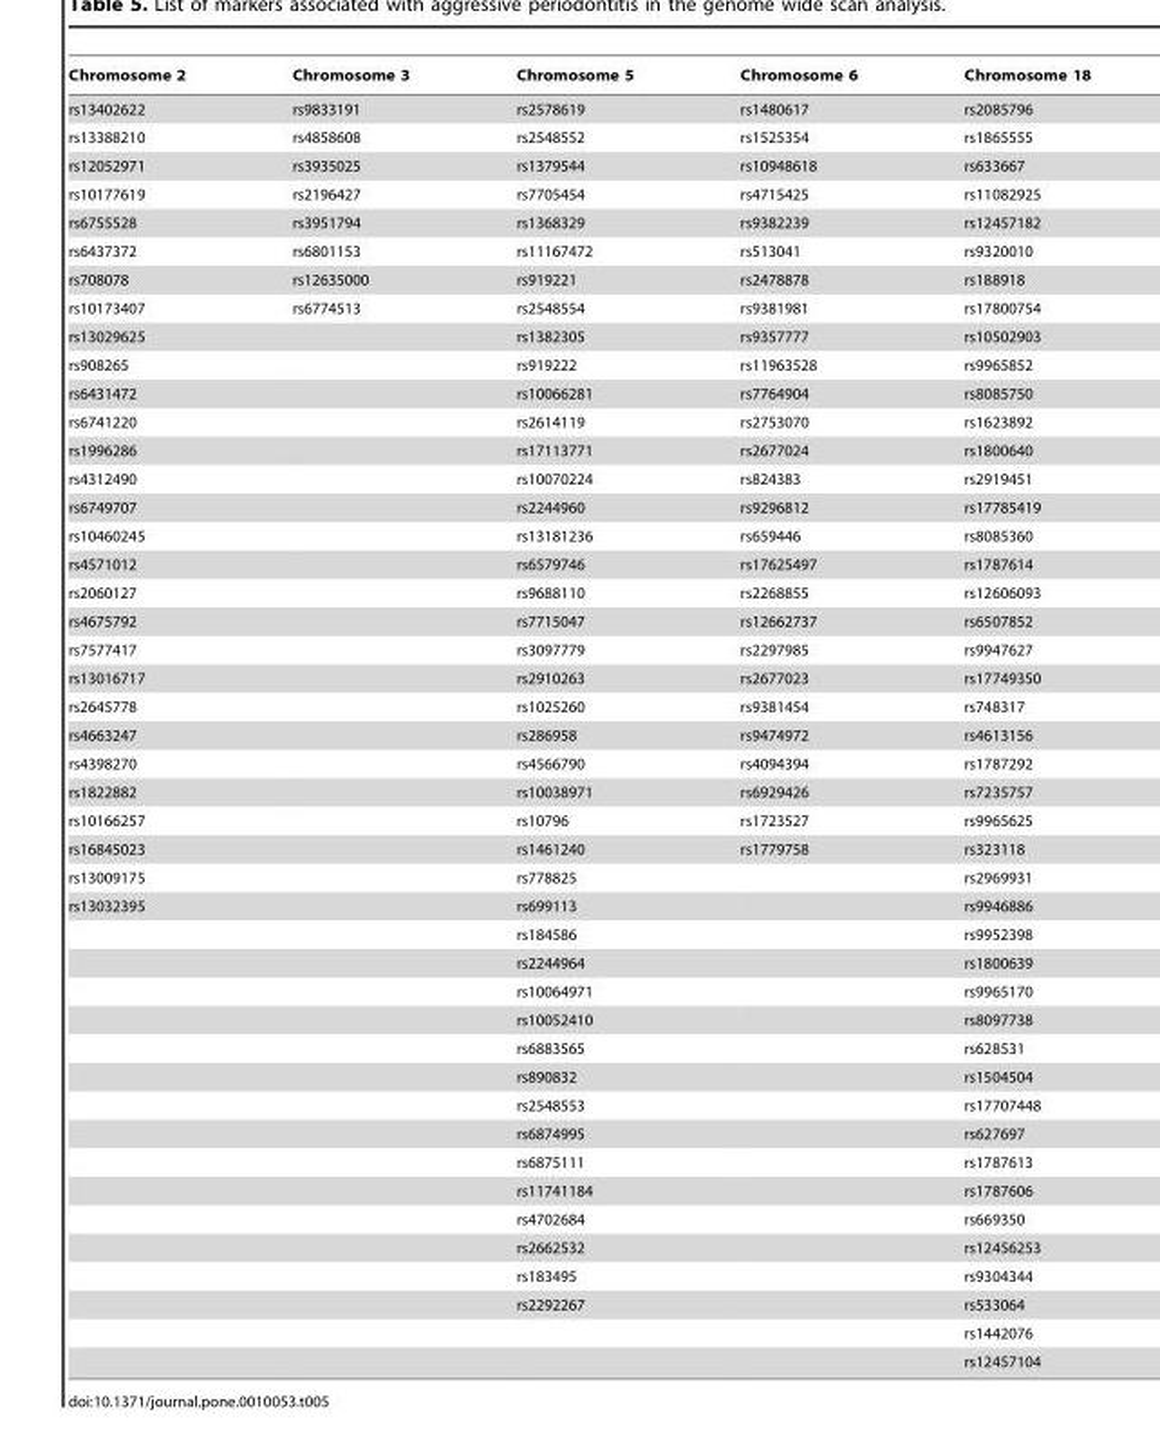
<table><thead><tr><td>Chromosome 2</td><td>Chromosome 3</td><td>Chromosome 5</td><td>Chromosome 6</td><td>Chromosome 18</td></tr></thead><tbody><tr><td>rs13402622</td><td>rs9833191</td><td>rs2578619</td><td>rs1480617</td><td>rs2085796</td></tr><tr><td>rs13388210</td><td>rs4858608</td><td>rs2548552</td><td>rs1525354</td><td>rs1865555</td></tr><tr><td>rs12052971</td><td>rs3935025</td><td>rs1379544</td><td>rs10948618</td><td>rs633667</td></tr><tr><td>rs10177619</td><td>rs2196427</td><td>rs7705454</td><td>rs4715425</td><td>rs11082925</td></tr><tr><td>rs6755528</td><td>rs3951794</td><td>rs1368329</td><td>rs9382239</td><td>rs12457182</td></tr><tr><td>rs6437372</td><td>rs6801153</td><td>rs11167472</td><td>rs513041</td><td>rs9320010</td></tr><tr><td>rs708078</td><td>rs12635000</td><td>rs919221</td><td>rs2478878</td><td>rs188918</td></tr><tr><td>rs10173407</td><td>rs6774513</td><td>rs2548554</td><td>rs9381981</td><td>rs17800754</td></tr><tr><td>rs13029625</td><td></td><td>rs1382305</td><td>rs9357777</td><td>rs10502903</td></tr><tr><td>rs908265</td><td></td><td>rs919222</td><td>rs11963528</td><td>rs9965852</td></tr><tr><td>rs6431472</td><td></td><td>rs10066281</td><td>rs7764904</td><td>rs8085750</td></tr><tr><td>rs6741220</td><td></td><td>rs2614119</td><td>rs2753070</td><td>rs1623892</td></tr><tr><td>rs1996286</td><td></td><td>rs17113771</td><td>rs2677024</td><td>rs1800640</td></tr><tr><td>rs4312490</td><td></td><td>rs10070224</td><td>rs824383</td><td>rs2919451</td></tr><tr><td>rs6749707</td><td></td><td>rs2244960</td><td>rs9296812</td><td>rs17785419</td></tr><tr><td>rs10460245</td><td></td><td>rs13181236</td><td>rs659446</td><td>rs8085360</td></tr><tr><td>rs4571012</td><td></td><td>rs6579746</td><td>rs17625497</td><td>rs1787614</td></tr><tr><td>rs2060127</td><td></td><td>rs9688110</td><td>rs2268855</td><td>rs12606093</td></tr><tr><td>rs4675792</td><td></td><td>rs7715047</td><td>rs12662737</td><td>rs6507852</td></tr><tr><td>rs7577417</td><td></td><td>rs3097779</td><td>rs2297985</td><td>rs9947627</td></tr><tr><td>rs13016717</td><td></td><td>rs2910263</td><td>rs2677023</td><td>rs17749350</td></tr><tr><td>rs2645778</td><td></td><td>rs1025260</td><td>rs9381454</td><td>rs748317</td></tr><tr><td>rs4663247</td><td></td><td>rs286958</td><td>rs9474972</td><td>rs4613156</td></tr><tr><td>rs4398270</td><td></td><td>rs4566790</td><td>rs4094394</td><td>rs1787292</td></tr><tr><td>rs1822882</td><td></td><td>rs10038971</td><td>rs6929426</td><td>rs7235757</td></tr><tr><td>rs10166257</td><td></td><td>rs10796</td><td>rs1723527</td><td>rs9965625</td></tr><tr><td>rs16845023</td><td></td><td>rs1461240</td><td>rs1779758</td><td>rs323118</td></tr><tr><td>rs13009175</td><td></td><td>rs778825</td><td></td><td>rs2969931</td></tr><tr><td rowspan="17">rs13032395</td><td></td><td>rs699113</td><td></td><td>rs9946886</td></tr><tr><td></td><td>rs184586</td><td></td><td>rs9952398</td></tr><tr><td></td><td>rs2244964</td><td></td><td>rs1800639</td></tr><tr><td></td><td>rs10064971</td><td></td><td>rs9965170</td></tr><tr><td></td><td>rs10052410</td><td></td><td>rs8097738</td></tr><tr><td></td><td>rs6883565</td><td></td><td>rs628531</td></tr><tr><td></td><td>rs890832</td><td></td><td>rs1504504</td></tr><tr><td></td><td>rs2548553</td><td></td><td>rs17707448</td></tr><tr><td></td><td>rs6874995</td><td></td><td>rs627697</td></tr><tr><td></td><td>rs6875111</td><td></td><td>rs1787613</td></tr><tr><td></td><td>rs11741184</td><td></td><td>rs1787606</td></tr><tr><td></td><td>rs4702684</td><td></td><td>rs669350</td></tr><tr><td></td><td>rs2662532</td><td></td><td>rs12456253</td></tr><tr><td></td><td>rs183495</td><td></td><td>rs9304344</td></tr><tr><td></td><td>rs2292267</td><td></td><td>rs533064</td></tr><tr><td></td><td></td><td></td><td>rs1442076</td></tr><tr><td></td><td></td><td></td><td>rs12457104</td></tr></tbody></table>